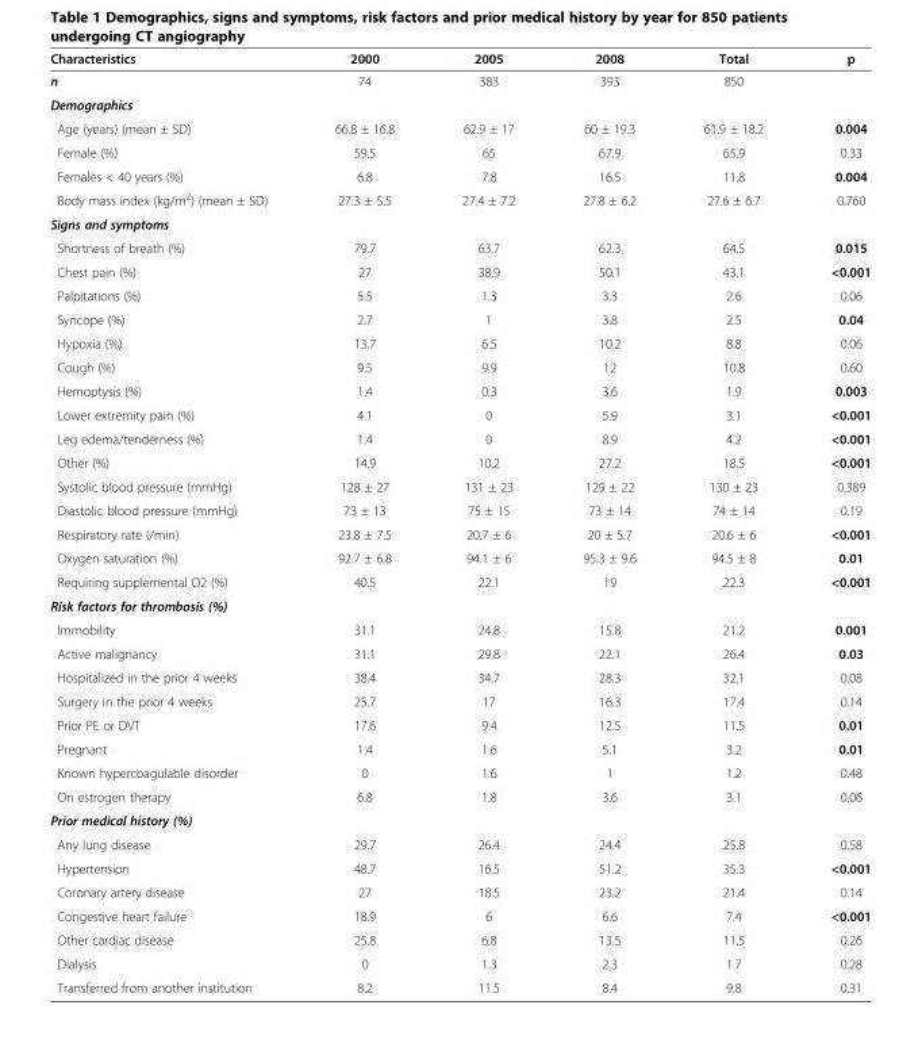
<table><thead><tr><td>Characteristics</td><td>2000</td><td>2005</td><td>2008</td><td>Total</td><td>p</td></tr></thead><tbody><tr><td>n</td><td>74</td><td>383</td><td>393</td><td>850</td><td></td></tr><tr><td colspan="6">Demographics</td></tr><tr><td>Age (years) (mean ± SD)</td><td>66.8 ± 16.8</td><td>62.9 ± 17</td><td>60 ± 19.3</td><td>61.9 ± 18.2</td><td>0.004</td></tr><tr><td>Female (%)</td><td>59.5</td><td>65</td><td>67.9</td><td>65.9</td><td>0.33</td></tr><tr><td>Females &lt; 40 years (%)</td><td>6.8</td><td>7.8</td><td>16.5</td><td>11.8</td><td>0.004</td></tr><tr><td>Body mass index (kg/m<sup>2</sup>) (mean ± SD)</td><td>27.3 ± 5.5</td><td>27.4 ± 7.2</td><td>27.8 ± 6.2</td><td>27.6 ± 6.7</td><td>0.760</td></tr><tr><td colspan="6">Signs and symptoms</td></tr><tr><td>Shortness of breath (%)</td><td>79.7</td><td>63.7</td><td>62.3</td><td>64.5</td><td>0.015</td></tr><tr><td>Chest pain (%)</td><td>27</td><td>38.9</td><td>50.1</td><td>43.1</td><td>&lt;0.001</td></tr><tr><td>Palpitations (%)</td><td>5.5</td><td>1.3</td><td>3.3</td><td>2.6</td><td>0.06</td></tr><tr><td>Syncope (%)</td><td>2.7</td><td>1</td><td>3.8</td><td>2.5</td><td>0.04</td></tr><tr><td>Hypoxia (%)</td><td>13.7</td><td>6.5</td><td>10.2</td><td>8.8</td><td>0.06</td></tr><tr><td>Cough (%)</td><td>9.5</td><td>9.9</td><td>12</td><td>10.8</td><td>0.60</td></tr><tr><td>Hemoptysis (%)</td><td>1.4</td><td>0.3</td><td>3.6</td><td>1.9</td><td>0.003</td></tr><tr><td>Lower extremity pain (%)</td><td>4.1</td><td>0</td><td>5.9</td><td>3.1</td><td>&lt;0.001</td></tr><tr><td>Leg edema/tenderness (%)</td><td>1.4</td><td>0</td><td>8.9</td><td>4.2</td><td>&lt;0.001</td></tr><tr><td>Other (%)</td><td>14.9</td><td>10.2</td><td>27.2</td><td>18.5</td><td>&lt;0.001</td></tr><tr><td>Systolic blood pressure (mmHg)</td><td>128 ± 27</td><td>131 ± 23</td><td>129 ± 22</td><td>130 ± 23</td><td>0.389</td></tr><tr><td>Diastolic blood pressure (mmHg)</td><td>73 ± 13</td><td>75 ± 15</td><td>73 ± 14</td><td>74 ± 14</td><td>0.19</td></tr><tr><td>Respiratory rate (/min)</td><td>23.8 ± 7.5</td><td>20.7 ± 6</td><td>20 ± 5.7</td><td>20.6 ± 6</td><td>&lt;0.001</td></tr><tr><td>Oxygen saturation (%)</td><td>92.7 ± 6.8</td><td>94.1 ± 6</td><td>95.3 ± 9.6</td><td>94.5 ± 8</td><td>0.01</td></tr><tr><td>Requiring supplemental O2 (%)</td><td>40.5</td><td>22.1</td><td>19</td><td>22.3</td><td>&lt;0.001</td></tr><tr><td colspan="6">Risk factors for thrombosis (%)</td></tr><tr><td>Immobility</td><td>31.1</td><td>24.8</td><td>15.8</td><td>21.2</td><td>0.001</td></tr><tr><td>Active malignancy</td><td>31.1</td><td>29.8</td><td>22.1</td><td>26.4</td><td>0.03</td></tr><tr><td>Hospitalized in the prior 4 weeks</td><td>38.4</td><td>34.7</td><td>28.3</td><td>32.1</td><td>0.08</td></tr><tr><td>Surgery in the prior 4 weeks</td><td>25.7</td><td>17</td><td>16.3</td><td>17.4</td><td>0.14</td></tr><tr><td>Prior PE or DVT</td><td>17.6</td><td>9.4</td><td>12.5</td><td>11.5</td><td>0.01</td></tr><tr><td>Pregnant</td><td>1.4</td><td>1.6</td><td>5.1</td><td>3.2</td><td>0.01</td></tr><tr><td>Known hypercoagulable disorder</td><td>0</td><td>1.6</td><td>1</td><td>1.2</td><td>0.48</td></tr><tr><td>On estrogen therapy</td><td>6.8</td><td>1.8</td><td>3.6</td><td>3.1</td><td>0.06</td></tr><tr><td colspan="6">Prior medical history (%)</td></tr><tr><td>Any lung disease</td><td>29.7</td><td>26.4</td><td>24.4</td><td>25.8</td><td>0.58</td></tr><tr><td>Hypertension</td><td>48.7</td><td>16.5</td><td>51.2</td><td>35.3</td><td>&lt;0.001</td></tr><tr><td>Coronary artery disease</td><td>27</td><td>18.5</td><td>23.2</td><td>21.4</td><td>0.14</td></tr><tr><td>Congestive heart failure</td><td>18.9</td><td>6</td><td>6.6</td><td>7.4</td><td>&lt;0.001</td></tr><tr><td>Other cardiac disease</td><td>25.8</td><td>6.8</td><td>13.5</td><td>11.5</td><td>0.26</td></tr><tr><td>Dialysis</td><td>0</td><td>1.3</td><td>2.3</td><td>1.7</td><td>0.28</td></tr><tr><td>Transferred from another institution</td><td>8.2</td><td>11.5</td><td>8.4</td><td>9.8</td><td>0.31</td></tr></tbody></table>